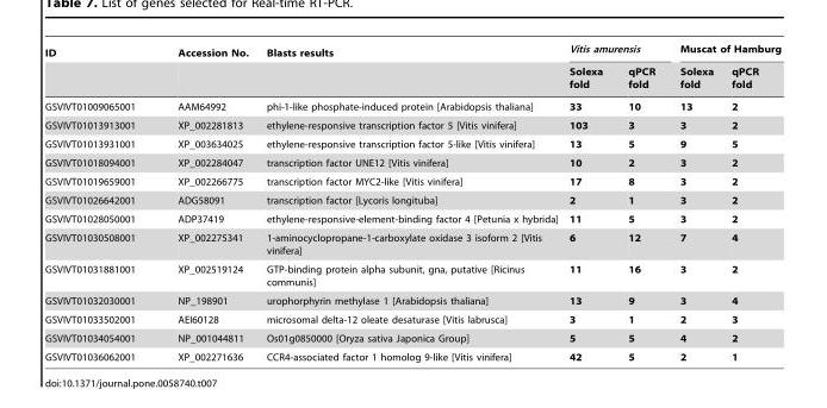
<table><thead><tr><td rowspan="2">ID</td><td rowspan="2">Accession No.</td><td rowspan="2">Blasts results</td><td colspan="2">Vitis amurensis</td><td colspan="2">Muscat of Hamburg</td></tr><tr><td>Solexa fold</td><td>qPCR fold</td><td>Solexa fold</td><td>qPCR fold</td></tr></thead><tbody><tr><td>GSVIVT01009065001</td><td>AAM64992</td><td>phi-1-like phosphate-induced protein [Arabidopsis thaliana]</td><td>33</td><td>10</td><td>13</td><td>2</td></tr><tr><td>GSVIVT01013913001</td><td>XP_002281813</td><td>ethylene-responsive transcription factor 5 [Vitis vinifera]</td><td>103</td><td>3</td><td>3</td><td>2</td></tr><tr><td>GSVIVT01013931001</td><td>XP_003634025</td><td>ethylene-responsive transcription factor 5-like [Vitis vinifera]</td><td>13</td><td>5</td><td>9</td><td>5</td></tr><tr><td>GSVIVT01018094001</td><td>XP_002284047</td><td>transcription factor UNE12 [Vitis vinifera]</td><td>10</td><td>2</td><td>3</td><td>2</td></tr><tr><td>GSVIVT01019659001</td><td>XP_002266775</td><td>transcription factor MYC2-like [Vitis vinifera]</td><td>17</td><td>8</td><td>3</td><td>2</td></tr><tr><td>GSVIVT01026642001</td><td>ADG58091</td><td>transcription factor [Lycoris longituba]</td><td>2</td><td>1</td><td>3</td><td>2</td></tr><tr><td>GSVIVT01028050001</td><td>ADP37419</td><td>ethylene-responsive-element-binding factor 4 [Petunia x hybrida]</td><td>11</td><td>5</td><td>3</td><td>2</td></tr><tr><td>GSVIVT01030508001</td><td>XP_002275341</td><td>1-aminocyclopropane-1-carboxylate oxidase 3 isoform 2 [Vitis vinifera]</td><td>6</td><td>12</td><td>7</td><td>4</td></tr><tr><td>GSVIVT01031881001</td><td>XP_002519124</td><td>GTP-binding protein alpha subunit, gna, putative [Ricinus communis]</td><td>11</td><td>16</td><td>3</td><td>2</td></tr><tr><td>GSVIVT01032030001</td><td>NP_198901</td><td>urophorphyrin methylase 1 [Arabidopsis thaliana]</td><td>13</td><td>9</td><td>3</td><td>4</td></tr><tr><td>GSVIVT01033502001</td><td>AEI60128</td><td>microsomal delta-12 oleate desaturase [Vitis labrusca]</td><td>3</td><td>1</td><td>2</td><td>3</td></tr><tr><td>GSVIVT01034054001</td><td>NP_001044811</td><td>Os01g0850000 [Oryza sativa Japonica Group]</td><td>5</td><td>5</td><td>4</td><td>2</td></tr><tr><td>GSVIVT01036062001</td><td>XP_002271636</td><td>CCR4-associated factor 1 homolog 9-like [Vitis vinifera]</td><td>42</td><td>5</td><td>2</td><td>1</td></tr></tbody></table>